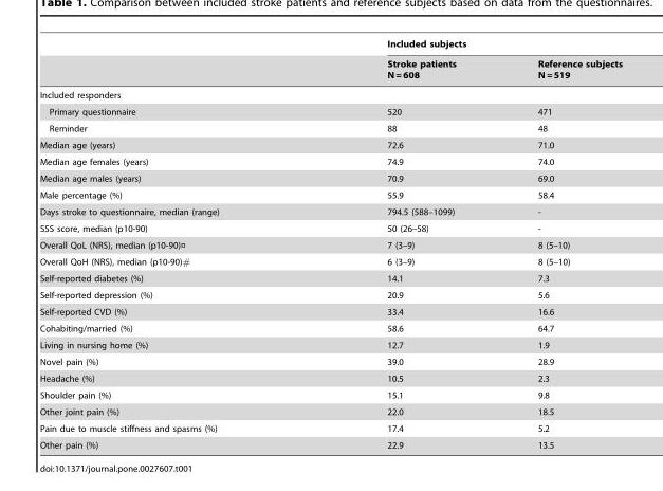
<table><thead><tr><td rowspan="2"></td><td colspan="2">Included subjects</td></tr><tr><td>Stroke patients N = 608</td><td>Reference subjects N = 519</td></tr></thead><tbody><tr><td colspan="3">Included responders</td></tr><tr><td>Primary questionnaire</td><td>520</td><td>471</td></tr><tr><td>Reminder</td><td>88</td><td>48</td></tr><tr><td>Median age (years)</td><td>72.6</td><td>71.0</td></tr><tr><td>Median age females (years)</td><td>74.9</td><td>74.0</td></tr><tr><td>Median age males (years)</td><td>70.9</td><td>69.0</td></tr><tr><td>Male percentage (%)</td><td>55.9</td><td>58.4</td></tr><tr><td>Days stroke to questionnaire, median (range)</td><td>794.5 (588–1099)</td><td>-</td></tr><tr><td>SSS score, median (p10-90)</td><td>50 (26–58)</td><td>-</td></tr><tr><td>Overall QoL (NRS), median (p10-90)¤</td><td>7 (3–9)</td><td>8 (5–10)</td></tr><tr><td>Overall QoH (NRS), median (p10-90)#</td><td>6 (3–9)</td><td>8 (5–10)</td></tr><tr><td>Self-reported diabetes (%)</td><td>14.1</td><td>7.3</td></tr><tr><td>Self-reported depression (%)</td><td>20.9</td><td>5.6</td></tr><tr><td>Self-reported CVD (%)</td><td>33.4</td><td>16.6</td></tr><tr><td>Cohabiting/married (%)</td><td>58.6</td><td>64.7</td></tr><tr><td>Living in nursing home (%)</td><td>12.7</td><td>1.9</td></tr><tr><td>Novel pain (%)</td><td>39.0</td><td>28.9</td></tr><tr><td>Headache (%)</td><td>10.5</td><td>2.3</td></tr><tr><td>Shoulder pain (%)</td><td>15.1</td><td>9.8</td></tr><tr><td>Other joint pain (%)</td><td>22.0</td><td>18.5</td></tr><tr><td>Pain due to muscle stiffness and spasms (%)</td><td>17.4</td><td>5.2</td></tr><tr><td>Other pain (%)</td><td>22.9</td><td>13.5</td></tr></tbody></table>